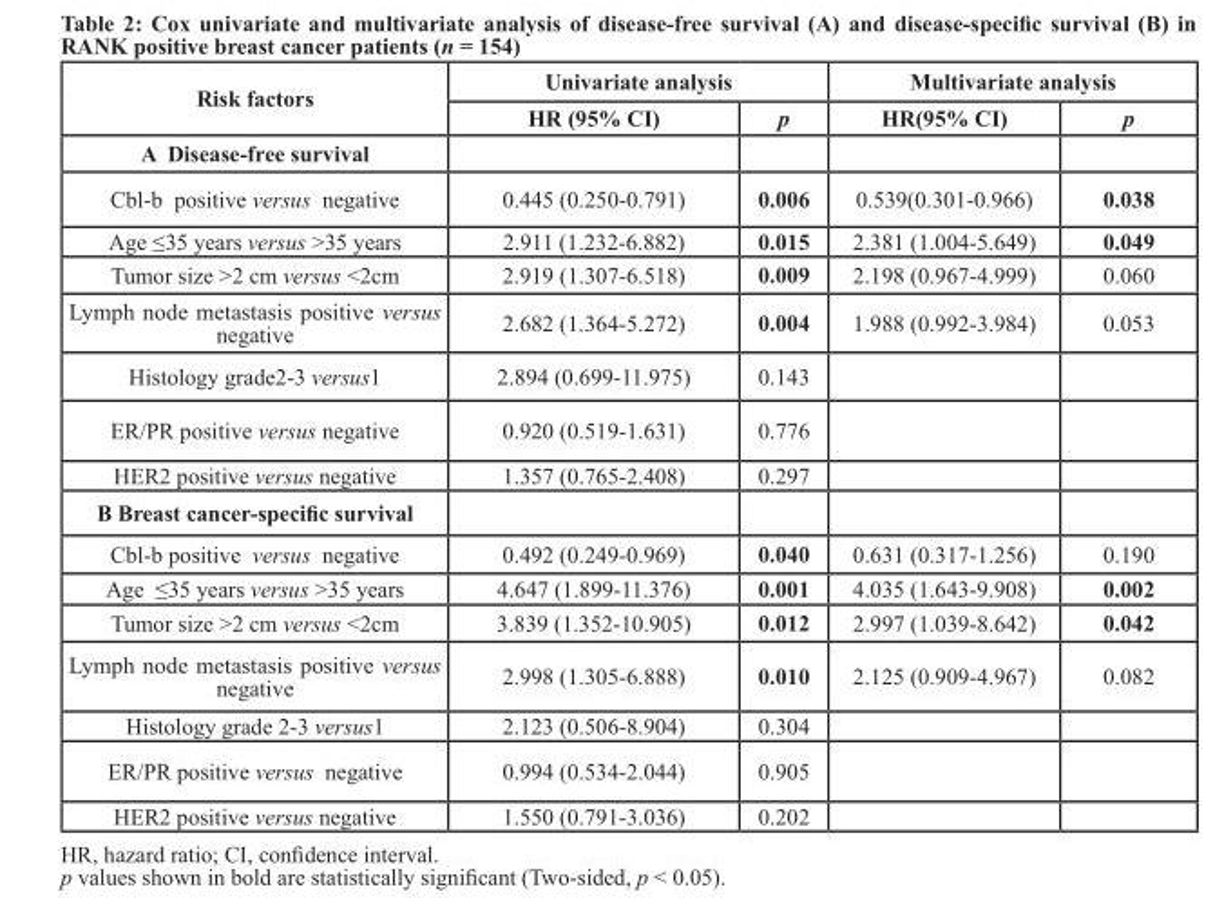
<table><thead><tr><td rowspan="2">Risk factors</td><td colspan="2">Univariate analysis</td><td colspan="2">Multivariate analysis</td></tr><tr><td>HR (95% CI)</td><td>p</td><td>HR(95% CI)</td><td>p</td></tr></thead><tbody><tr><td colspan="5">A Disease-free survival</td></tr><tr><td>Cbl-b positive versus negative</td><td>0.445 (0.250-0.791)</td><td>0.006</td><td>0.539(0.301-0.966)</td><td>0.038</td></tr><tr><td>Age ≤35 years versus &gt;35 years</td><td>2.911 (1.232-6.882)</td><td>0.015</td><td>2.381 (1.004-5.649)</td><td>0.049</td></tr><tr><td>Tumor size &gt;2 cm versus &lt;2cm</td><td>2.919 (1.307-6.518)</td><td>0.009</td><td>2.198 (0.967-4.999)</td><td>0.060</td></tr><tr><td>Lymph node metastasis positive versus negative</td><td>2.682 (1.364-5.272)</td><td>0.004</td><td>1.988 (0.992-3.984)</td><td>0.053</td></tr><tr><td>Histology grade2-3 versus1</td><td>2.894 (0.699-11.975)</td><td>0.143</td><td></td><td></td></tr><tr><td>ER/PR positive versus negative</td><td>0.920 (0.519-1.631)</td><td>0.776</td><td></td><td></td></tr><tr><td>HER2 positive versus negative</td><td>1.357 (0.765-2.408)</td><td>0.297</td><td></td><td></td></tr><tr><td colspan="5">B Breast cancer-specific survival</td></tr><tr><td>Cbl-b positive versus negative</td><td>0.492 (0.249-0.969)</td><td>0.040</td><td>0.631 (0.317-1.256)</td><td>0.190</td></tr><tr><td>Age ≤35 years versus &gt;35 years</td><td>4.647 (1.899-11.376)</td><td>0.001</td><td>4.035 (1.643-9.908)</td><td>0.002</td></tr><tr><td>Tumor size &gt;2 cm versus &lt;2cm</td><td>3.839 (1.352-10.905)</td><td>0.012</td><td>2.997 (1.039-8.642)</td><td>0.042</td></tr><tr><td>Lymph node metastasis positive versus negative</td><td>2.998 (1.305-6.888)</td><td>0.010</td><td>2.125 (0.909-4.967)</td><td>0.082</td></tr><tr><td>Histology grade 2-3 versus1</td><td>2.123 (0.506-8.904)</td><td>0.304</td><td></td><td></td></tr><tr><td>ER/PR positive versus negative</td><td>0.994 (0.534-2.044)</td><td>0.905</td><td></td><td></td></tr><tr><td>HER2 positive versus negative</td><td>1.550 (0.791-3.036)</td><td>0.202</td><td></td><td></td></tr></tbody></table>